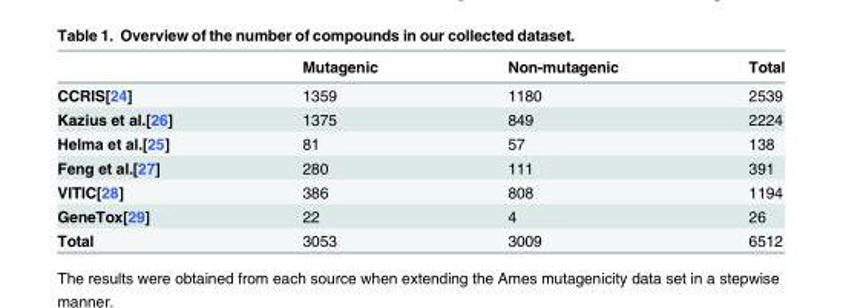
<table><thead><tr><td></td><td>Mutagenic</td><td>Non-mutagenic</td><td>Total</td></tr></thead><tbody><tr><td>CCRIS[24]</td><td>1359</td><td>1180</td><td>2539</td></tr><tr><td>Kazius et al.[26]</td><td>1375</td><td>849</td><td>2224</td></tr><tr><td>Helma et al.[25]</td><td>81</td><td>57</td><td>138</td></tr><tr><td>Feng et al.[27]</td><td>280</td><td>111</td><td>391</td></tr><tr><td>VITIC[28]</td><td>386</td><td>808</td><td>1194</td></tr><tr><td>GeneTox[29]</td><td>22</td><td>4</td><td>26</td></tr><tr><td>Total</td><td>3053</td><td>3009</td><td>6512</td></tr></tbody></table>